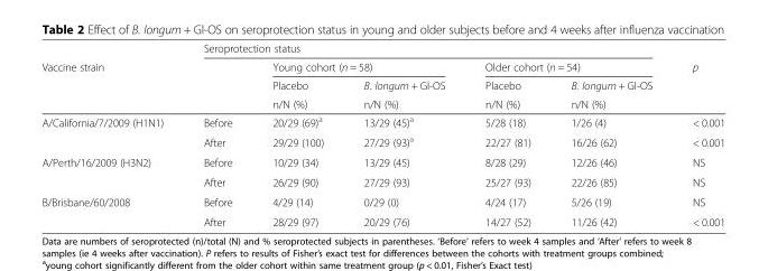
<table><thead><tr><td rowspan="4">Vaccine strain</td><td colspan="5">Seroprotection status</td><td rowspan="4">p</td></tr><tr><td rowspan="3"></td><td colspan="2">Young cohort (n = 58)</td><td colspan="2">Older cohort (n = 54)</td></tr><tr><td rowspan="2">Placebo n/N (%)</td><td rowspan="2">B. longum + Gl-OS n/N (%)</td><td rowspan="2">Placebo n/N (%)</td><td rowspan="2">B. longum + Gl-OS n/N (%)</td></tr><tr></tr></thead><tbody><tr><td rowspan="2">A/California/7/2009 (H1N1)</td><td>Before</td><td>20/29 (69)<sup>a</sup></td><td>13/29 (45)<sup>a</sup></td><td>5/28 (18)</td><td>1/26 (4)</td><td>&lt; 0.001</td></tr><tr><td>After</td><td>29/29 (100)</td><td>27/29 (93)<sup>a</sup></td><td>22/27 (81)</td><td>16/26 (62)</td><td>&lt; 0.001</td></tr><tr><td rowspan="2">A/Perth/16/2009 (H3N2)</td><td>Before</td><td>10/29 (34)</td><td>13/29 (45)</td><td>8/28 (29)</td><td>12/26 (46)</td><td>NS</td></tr><tr><td>After</td><td>26/29 (90)</td><td>27/29 (93)</td><td>25/27 (93)</td><td>22/26 (85)</td><td>NS</td></tr><tr><td rowspan="2">B/Brisbane/60/2008</td><td>Before</td><td>4/29 (14)</td><td>0/29 (0)</td><td>4/24 (17)</td><td>5/26 (19)</td><td>NS</td></tr><tr><td>After</td><td>28/29 (97)</td><td>20/29 (76)</td><td>14/27 (52)</td><td>11/26 (42)</td><td>&lt; 0.001</td></tr></tbody></table>